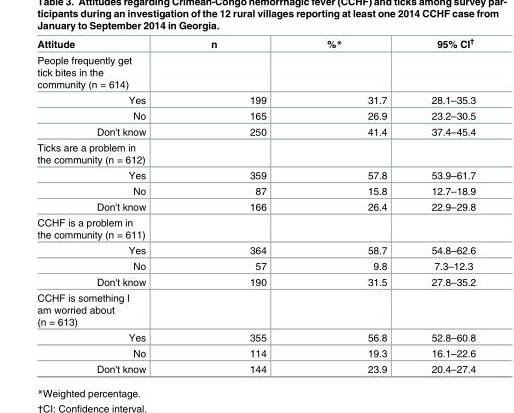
<table><thead><tr><td>Attitude</td><td>n</td><td>%*</td><td>95% CI<sup>†</sup></td></tr></thead><tbody><tr><td colspan="4">People frequently get tick bites in the community (n = 614)</td></tr><tr><td>Yes</td><td>199</td><td>31.7</td><td>28.1–35.3</td></tr><tr><td>No</td><td>165</td><td>26.9</td><td>23.2–30.5</td></tr><tr><td>Don&#x27;t know</td><td>250</td><td>41.4</td><td>37.4–45.4</td></tr><tr><td colspan="4">Ticks are a problem in the community (n = 612)</td></tr><tr><td>Yes</td><td>359</td><td>57.8</td><td>53.9–61.7</td></tr><tr><td>No</td><td>87</td><td>15.8</td><td>12.7–18.9</td></tr><tr><td>Don&#x27;t know</td><td>166</td><td>26.4</td><td>22.9–29.8</td></tr><tr><td colspan="4">CCHF is a problem in the community (n = 611)</td></tr><tr><td>Yes</td><td>364</td><td>58.7</td><td>54.8–62.6</td></tr><tr><td>No</td><td>57</td><td>9.8</td><td>7.3–12.3</td></tr><tr><td>Don&#x27;t know</td><td>190</td><td>31.5</td><td>27.8–35.2</td></tr><tr><td colspan="4">CCHF is something I am worried about (n = 613)</td></tr><tr><td>Yes</td><td>355</td><td>56.8</td><td>52.8–60.8</td></tr><tr><td>No</td><td>114</td><td>19.3</td><td>16.1–22.6</td></tr><tr><td>Don&#x27;t know</td><td>144</td><td>23.9</td><td>20.4–27.4</td></tr></tbody></table>